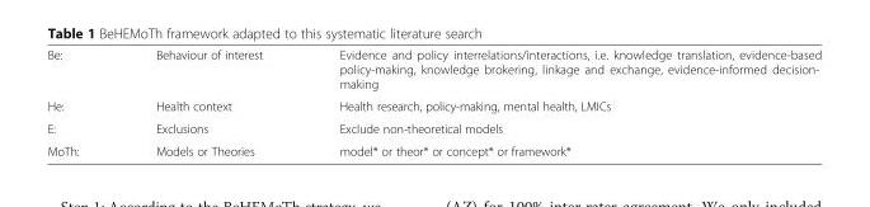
<table><tbody><tr><td>Be:</td><td>Behaviour of interest</td><td>Evidence and policy interrelations/interactions, i.e. knowledge translation, evidence-based policy-making, knowledge brokering, linkage and exchange, evidence-informed decision- making</td></tr><tr><td>He:</td><td>Health context</td><td>Health research, policy-making, mental health, LMICs</td></tr><tr><td>E:</td><td>Exclusions</td><td>Exclude non-theoretical models</td></tr><tr><td>MoTh:</td><td>Models or Theories</td><td>model* or theor* or concept* or framework*</td></tr></tbody></table>